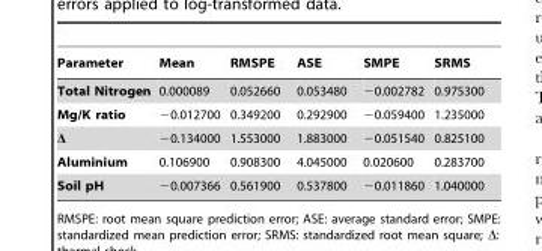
<table><thead><tr><td>Parameter</td><td>Mean</td><td>RMSPE</td><td>ASE</td><td>SMPE</td><td>SRMS</td></tr></thead><tbody><tr><td>Total Nitrogen</td><td>0.000089</td><td>0.052660</td><td>0.053480</td><td>−0.002782</td><td>0.975300</td></tr><tr><td>Mg/K ratio</td><td>−0.012700</td><td>0.349200</td><td>0.292900</td><td>−0.059400</td><td>1.235000</td></tr><tr><td>Δ</td><td>−0.134000</td><td>1.553000</td><td>1.883000</td><td>−0.051540</td><td>0.825100</td></tr><tr><td>Aluminium</td><td>0.106900</td><td>0.908300</td><td>4.045000</td><td>0.020600</td><td>0.283700</td></tr><tr><td>Soil pH</td><td>−0.007366</td><td>0.561900</td><td>0.537800</td><td>−0.011860</td><td>1.040000</td></tr></tbody></table>